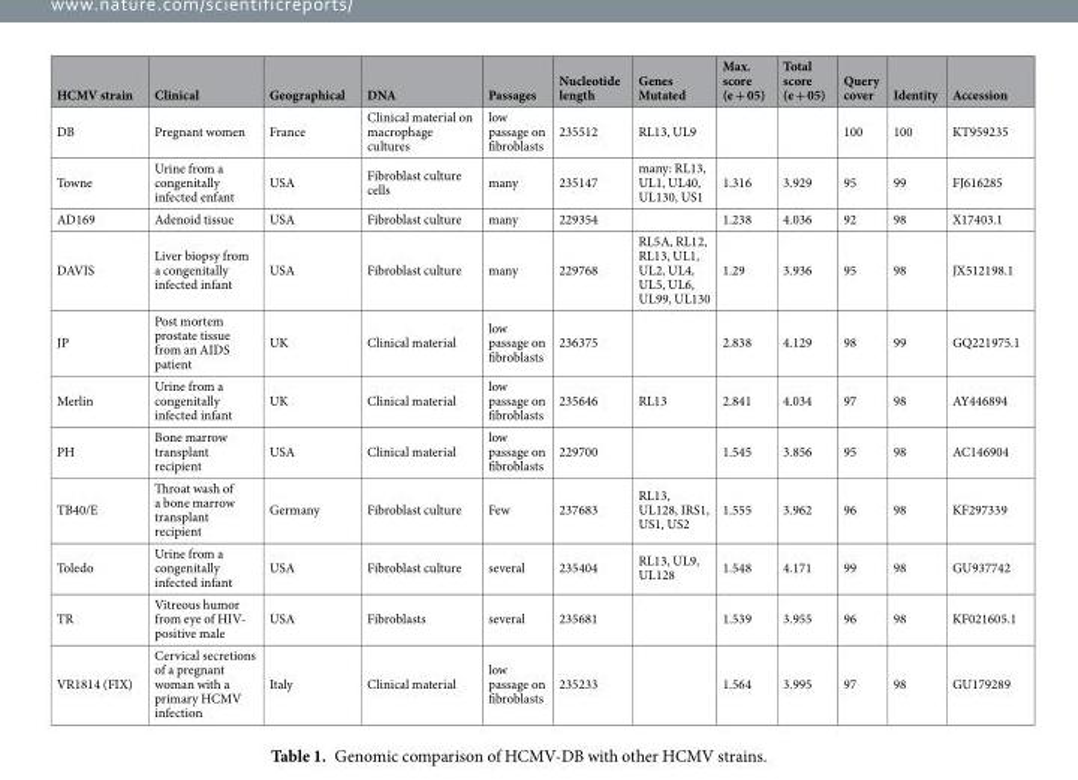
<table><thead><tr><td>HCMV strain</td><td>Clinical</td><td>Geographical</td><td>DNA</td><td>Passages</td><td>Nucleotide length</td><td>Genes Mutated</td><td>Max. score (e + 05)</td><td>Total score (e + 05)</td><td>Query cover</td><td>Identity</td><td>Accession</td></tr></thead><tbody><tr><td>DB</td><td>Pregnant women</td><td>France</td><td>Clinical material on macrophage cultures</td><td>low passage on fibroblasts</td><td>235512</td><td>RL13, UL9</td><td></td><td></td><td>100</td><td>100</td><td>KT959235</td></tr><tr><td>Towne</td><td>Urine from a congenitally infected enfant</td><td>USA</td><td>Fibroblast culture cells</td><td>many</td><td>235147</td><td>many: RL13, UL1, UL40, UL130, US1</td><td>1.316</td><td>3.929</td><td>95</td><td>99</td><td>FJ616285</td></tr><tr><td>AD169</td><td>Adenoid tissue</td><td>USA</td><td>Fibroblast culture</td><td>many</td><td>229354</td><td></td><td>1.238</td><td>4.036</td><td>92</td><td>98</td><td>X17403.1</td></tr><tr><td>DAVIS</td><td>Liver biopsy from a congenitally infected infant</td><td>USA</td><td>Fibroblast culture</td><td>many</td><td>229768</td><td>RL5A, RL12, RL13, UL1, UL2, UL4, UL5, UL6, UL99, UL130</td><td>1.29</td><td>3.936</td><td>95</td><td>98</td><td>JX512198.1</td></tr><tr><td>JP</td><td>Post mortem prostate tissue from an AIDS patient</td><td>UK</td><td>Clinical material</td><td>low passage on fibroblasts</td><td>236375</td><td></td><td>2.838</td><td>4.129</td><td>98</td><td>99</td><td>GQ221975.1</td></tr><tr><td>Merlin</td><td>Urine from a congenitally infected infant</td><td>UK</td><td>Clinical material</td><td>low passage on fibroblasts</td><td>235646</td><td>RL13</td><td>2.841</td><td>4.034</td><td>97</td><td>98</td><td>AY446894</td></tr><tr><td>PH</td><td>Bone marrow transplant recipient</td><td>USA</td><td>Clinical material</td><td>low passage on fibroblasts</td><td>229700</td><td></td><td>1.545</td><td>3.856</td><td>95</td><td>98</td><td>AC146904</td></tr><tr><td>TB40/E</td><td>Throat wash of a bone marrow transplant recipient</td><td>Germany</td><td>Fibroblast culture</td><td>Few</td><td>237683</td><td>RL13, UL128, IRS1, US1, US2</td><td>1.555</td><td>3.962</td><td>96</td><td>98</td><td>KF297339</td></tr><tr><td>Toledo</td><td>Urine from a congenitally infected infant</td><td>USA</td><td>Fibroblast culture</td><td>several</td><td>235404</td><td>RL13, UL9, UL128</td><td>1.548</td><td>4.171</td><td>99</td><td>98</td><td>GU937742</td></tr><tr><td>TR</td><td>Vitreous humor from eye of HIV- positive male</td><td>USA</td><td>Fibroblasts</td><td>several</td><td>235681</td><td></td><td>1.539</td><td>3.955</td><td>96</td><td>98</td><td>KF021605.1</td></tr><tr><td>VR1814 (FIX)</td><td>Cervical secretions of a pregnant woman with a primary HCMV infection</td><td>Italy</td><td>Clinical material</td><td>low passage on fibroblasts</td><td>235233</td><td></td><td>1.564</td><td>3.995</td><td>97</td><td>98</td><td>GU179289</td></tr></tbody></table>